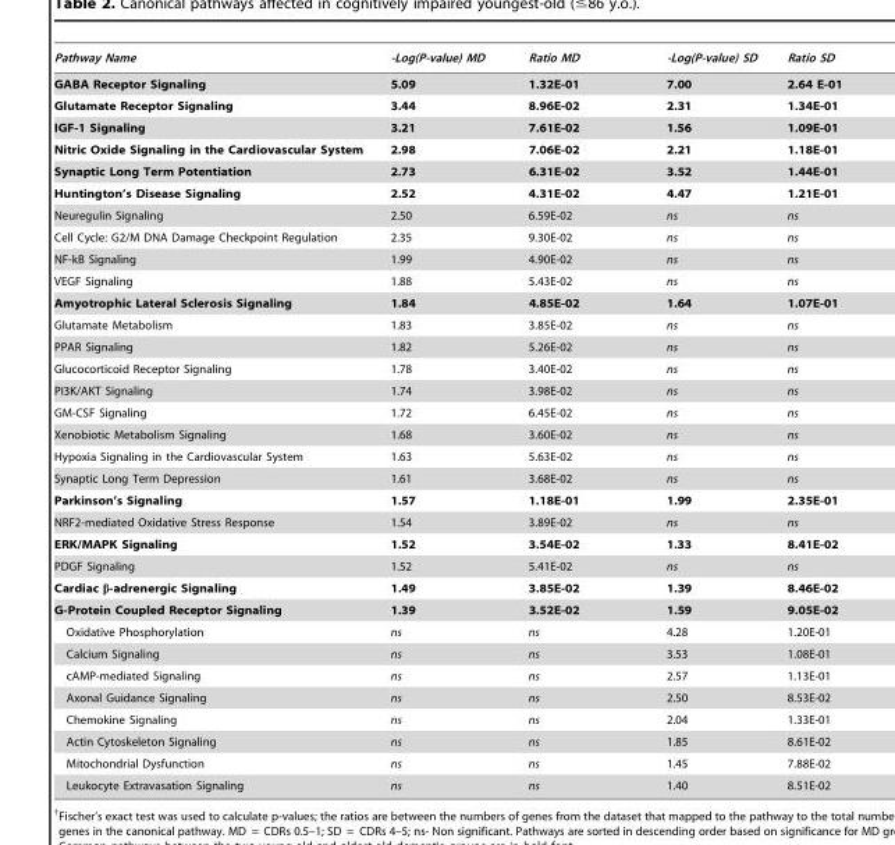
<table><thead><tr><td>Pathway Name</td><td>-Log(P-value) MD</td><td>Ratio MD</td><td>-Log(P-value) SD</td><td>Ratio SD</td></tr></thead><tbody><tr><td>GABA Receptor Signaling</td><td>5.09</td><td>1.32E-01</td><td>7.00</td><td>2.64 E-01</td></tr><tr><td>Glutamate Receptor Signaling</td><td>3.44</td><td>8.96E-02</td><td>2.31</td><td>1.34E-01</td></tr><tr><td>IGF-1 Signaling</td><td>3.21</td><td>7.61E-02</td><td>1.56</td><td>1.09E-01</td></tr><tr><td>Nitric Oxide Signaling in the Cardiovascular System</td><td>2.98</td><td>7.06E-02</td><td>2.21</td><td>1.18E-01</td></tr><tr><td>Synaptic Long Term Potentiation</td><td>2.73</td><td>6.31E-02</td><td>3.52</td><td>1.44E-01</td></tr><tr><td>Huntington’s Disease Signaling</td><td>2.52</td><td>4.31E-02</td><td>4.47</td><td>1.21E-01</td></tr><tr><td>Neuregulin Signaling</td><td>2.50</td><td>6.59E-02</td><td>ns</td><td>ns</td></tr><tr><td>Cell Cycle: G2/M DNA Damage Checkpoint Regulation</td><td>2.35</td><td>9.30E-02</td><td>ns</td><td>ns</td></tr><tr><td>NF-kB Signaling</td><td>1.99</td><td>4.90E-02</td><td>ns</td><td>ns</td></tr><tr><td>VEGF Signaling</td><td>1.88</td><td>5.43E-02</td><td>ns</td><td>ns</td></tr><tr><td>Amyotrophic Lateral Sclerosis Signaling</td><td>1.84</td><td>4.85E-02</td><td>1.64</td><td>1.07E-01</td></tr><tr><td>Glutamate Metabolism</td><td>1.83</td><td>3.85E-02</td><td>ns</td><td>ns</td></tr><tr><td>PPAR Signaling</td><td>1.82</td><td>5.26E-02</td><td>ns</td><td>ns</td></tr><tr><td>Glucocorticoid Receptor Signaling</td><td>1.78</td><td>3.40E-02</td><td>ns</td><td>ns</td></tr><tr><td>PI3K/AKT Signaling</td><td>1.74</td><td>3.98E-02</td><td>ns</td><td>ns</td></tr><tr><td>GM-CSF Signaling</td><td>1.72</td><td>6.45E-02</td><td>ns</td><td>ns</td></tr><tr><td>Xenobiotic Metabolism Signaling</td><td>1.68</td><td>3.60E-02</td><td>ns</td><td>ns</td></tr><tr><td>Hypoxia Signaling in the Cardiovascular System</td><td>1.63</td><td>5.63E-02</td><td>ns</td><td>ns</td></tr><tr><td>Synaptic Long Term Depression</td><td>1.61</td><td>3.68E-02</td><td>ns</td><td>ns</td></tr><tr><td>Parkinson’s Signaling</td><td>1.57</td><td>1.18E-01</td><td>1.99</td><td>2.35E-01</td></tr><tr><td>NRF2-mediated Oxidative Stress Response</td><td>1.54</td><td>3.89E-02</td><td>ns</td><td>ns</td></tr><tr><td>ERK/MAPK Signaling</td><td>1.52</td><td>3.54E-02</td><td>1.33</td><td>8.41E-02</td></tr><tr><td>PDGF Signaling</td><td>1.52</td><td>5.41E-02</td><td>ns</td><td>ns</td></tr><tr><td>Cardiac β-adrenergic Signaling</td><td>1.49</td><td>3.85E-02</td><td>1.39</td><td>8.46E-02</td></tr><tr><td>G-Protein Coupled Receptor Signaling</td><td>1.39</td><td>3.52E-02</td><td>1.59</td><td>9.05E-02</td></tr><tr><td>Oxidative Phosphorylation</td><td>ns</td><td>ns</td><td>4.28</td><td>1.20E-01</td></tr><tr><td>Calcium Signaling</td><td>ns</td><td>ns</td><td>3.53</td><td>1.08E-01</td></tr><tr><td>cAMP-mediated Signaling</td><td>ns</td><td>ns</td><td>2.57</td><td>1.13E-01</td></tr><tr><td>Axonal Guidance Signaling</td><td>ns</td><td>ns</td><td>2.50</td><td>8.53E-02</td></tr><tr><td>Chemokine Signaling</td><td>ns</td><td>ns</td><td>2.04</td><td>1.33E-01</td></tr><tr><td>Actin Cytoskeleton Signaling</td><td>ns</td><td>ns</td><td>1.85</td><td>8.61E-02</td></tr><tr><td>Mitochondrial Dysfunction</td><td>ns</td><td>ns</td><td>1.45</td><td>7.88E-02</td></tr><tr><td>Leukocyte Extravasation Signaling</td><td>ns</td><td>ns</td><td>1.40</td><td>8.51E-02</td></tr></tbody></table>